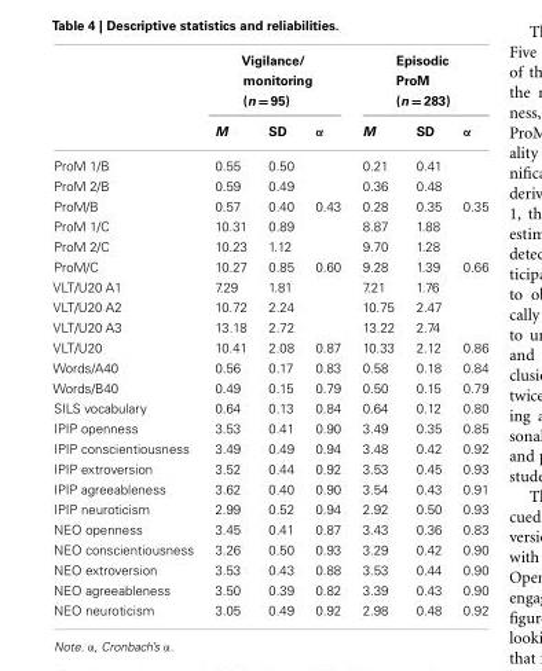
<table><thead><tr><td rowspan="2"></td><td colspan="3">Vigilance/ monitoring (n = 95)</td><td colspan="3">Episodic ProM (n = 283)</td></tr><tr><td>M</td><td>SD</td><td>α</td><td>M</td><td>SD</td><td>α</td></tr></thead><tbody><tr><td>ProM 1/B</td><td>0.55</td><td>0.50</td><td></td><td>0.21</td><td>0.41</td><td></td></tr><tr><td>ProM 2/B</td><td>0.59</td><td>0.49</td><td></td><td>0.36</td><td>0.48</td><td></td></tr><tr><td>ProM/B</td><td>0.57</td><td>0.40</td><td>0.43</td><td>0.28</td><td>0.35</td><td>0.35</td></tr><tr><td>ProM 1/C</td><td>10.31</td><td>0.89</td><td></td><td>8.87</td><td>1.88</td><td></td></tr><tr><td>ProM 2/C</td><td>10.23</td><td>1.12</td><td></td><td>9.70</td><td>1.28</td><td></td></tr><tr><td>ProM/C</td><td>10.27</td><td>0.85</td><td>0.60</td><td>9.28</td><td>1.39</td><td>0.66</td></tr><tr><td>VLT/U20 A1</td><td>7.29</td><td>1.81</td><td></td><td>7.21</td><td>1.76</td><td></td></tr><tr><td>VLT/U20 A2</td><td>10.72</td><td>2.24</td><td></td><td>10.75</td><td>2.47</td><td></td></tr><tr><td>VLT/U20 A3</td><td>13.18</td><td>2.72</td><td></td><td>13.22</td><td>2.74</td><td></td></tr><tr><td>VLT/U20</td><td>10.41</td><td>2.08</td><td>0.87</td><td>10.33</td><td>2.12</td><td>0.86</td></tr><tr><td>Words/A40</td><td>0.56</td><td>0.17</td><td>0.83</td><td>0.58</td><td>0.18</td><td>0.84</td></tr><tr><td>Words/B40</td><td>0.49</td><td>0.15</td><td>0.79</td><td>0.50</td><td>0.15</td><td>0.79</td></tr><tr><td>SILS vocabulary</td><td>0.64</td><td>0.13</td><td>0.84</td><td>0.64</td><td>0.12</td><td>0.80</td></tr><tr><td>IPIP openness</td><td>3.53</td><td>0.41</td><td>0.90</td><td>3.49</td><td>0.35</td><td>0.85</td></tr><tr><td>IPIP conscientiousness</td><td>3.49</td><td>0.49</td><td>0.94</td><td>3.48</td><td>0.42</td><td>0.92</td></tr><tr><td>IPIP extroversion</td><td>3.52</td><td>0.44</td><td>0.92</td><td>3.53</td><td>0.45</td><td>0.93</td></tr><tr><td>IPIP agreeableness</td><td>3.62</td><td>0.40</td><td>0.90</td><td>3.54</td><td>0.43</td><td>0.91</td></tr><tr><td>IPIP neuroticism</td><td>2.99</td><td>0.52</td><td>0.94</td><td>2.92</td><td>0.50</td><td>0.93</td></tr><tr><td>NEO openness</td><td>3.45</td><td>0.41</td><td>0.87</td><td>3.43</td><td>0.36</td><td>0.83</td></tr><tr><td>NEO conscientiousness</td><td>3.26</td><td>0.50</td><td>0.93</td><td>3.29</td><td>0.42</td><td>0.90</td></tr><tr><td>NEO extroversion</td><td>3.53</td><td>0.43</td><td>0.88</td><td>3.53</td><td>0.44</td><td>0.90</td></tr><tr><td>NEO agreeableness</td><td>3.50</td><td>0.39</td><td>0.82</td><td>3.39</td><td>0.43</td><td>0.90</td></tr><tr><td>NEO neuroticism</td><td>3.05</td><td>0.49</td><td>0.92</td><td>2.98</td><td>0.48</td><td>0.92</td></tr></tbody></table>